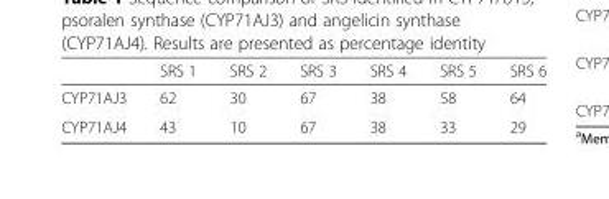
<table><thead><tr><td></td><td>SRS 1</td><td>SRS 2</td><td>SRS 3</td><td>SRS 4</td><td>SRS 5</td><td>SRS 6</td></tr></thead><tbody><tr><td>CYP71AJ3</td><td>62</td><td>30</td><td>67</td><td>38</td><td>58</td><td>64</td></tr><tr><td>CYP71AJ4</td><td>43</td><td>10</td><td>67</td><td>38</td><td>33</td><td>29</td></tr></tbody></table>